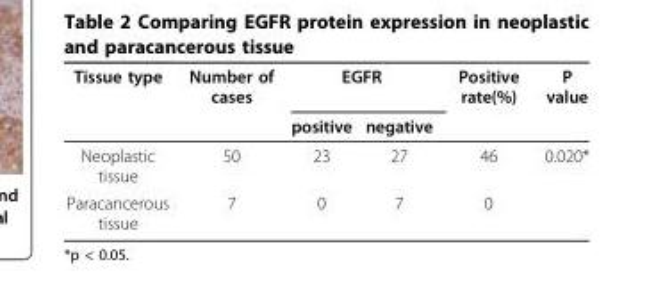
<table><thead><tr><td rowspan="2">Tissue type</td><td rowspan="2">Number of cases</td><td colspan="2">EGFR</td><td rowspan="2">Positive rate(%)</td><td rowspan="2">P value</td></tr><tr><td>positive</td><td>negative</td></tr></thead><tbody><tr><td>Neoplastic tissue</td><td>50</td><td>23</td><td>27</td><td>46</td><td>0.020*</td></tr><tr><td>Paracancerous tissue</td><td>7</td><td>0</td><td>7</td><td>0</td><td></td></tr></tbody></table>